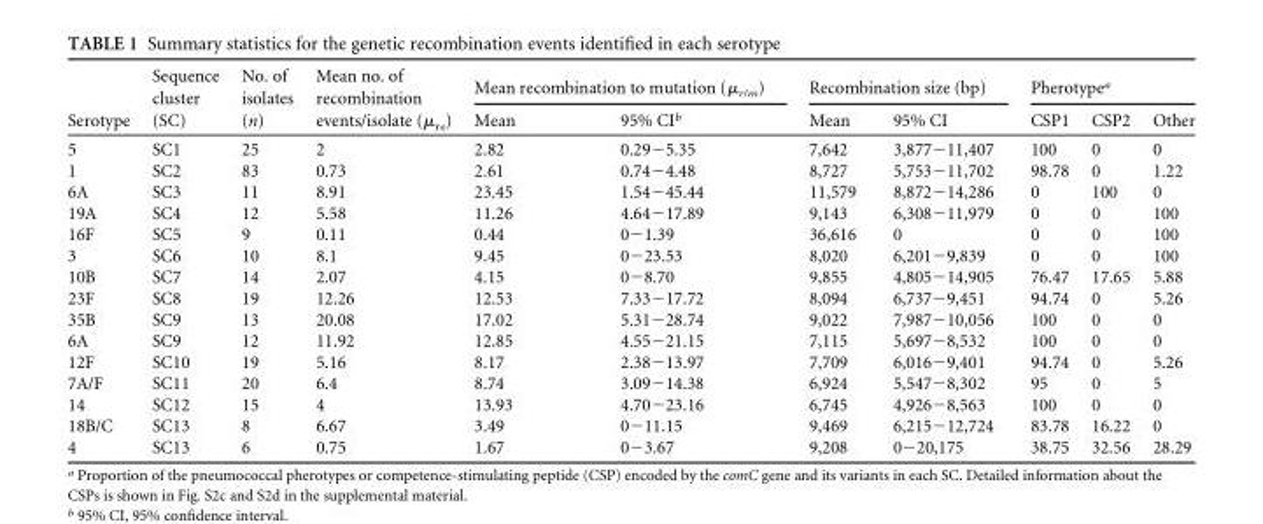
<table><thead><tr><td rowspan="2">Serotype</td><td rowspan="2">Sequence cluster (SC)</td><td rowspan="2">No. of isolates (n)</td><td rowspan="2">Mean no. of recombination events/isolate (μ<sub>re</sub>)</td><td colspan="2">Mean recombination to mutation (μ<sub>r/m</sub>)</td><td colspan="2">Recombination size (bp)</td><td colspan="3">Pherotype<sup>a</sup></td></tr><tr><td>Mean</td><td>95% CI<sup>b</sup></td><td>Mean</td><td>95% CI</td><td>CSP1</td><td>CSP2</td><td>Other</td></tr></thead><tbody><tr><td>5</td><td>SC1</td><td>25</td><td>2</td><td>2.82</td><td>0.29−5.35</td><td>7,642</td><td>3,877−11,407</td><td>100</td><td>0</td><td>0</td></tr><tr><td>1</td><td>SC2</td><td>83</td><td>0.73</td><td>2.61</td><td>0.74−4.48</td><td>8,727</td><td>5,753−11,702</td><td>98.78</td><td>0</td><td>1.22</td></tr><tr><td>6A</td><td>SC3</td><td>11</td><td>8.91</td><td>23.45</td><td>1.54−45.44</td><td>11,579</td><td>8,872−14,286</td><td>0</td><td>100</td><td>0</td></tr><tr><td>19A</td><td>SC4</td><td>12</td><td>5.58</td><td>11.26</td><td>4.64−17.89</td><td>9,143</td><td>6,308−11,979</td><td>0</td><td>0</td><td>100</td></tr><tr><td>16F</td><td>SC5</td><td>9</td><td>0.11</td><td>0.44</td><td>0−1.39</td><td>36,616</td><td>0</td><td>0</td><td>0</td><td>100</td></tr><tr><td>3</td><td>SC6</td><td>10</td><td>8.1</td><td>9.45</td><td>0−23.53</td><td>8,020</td><td>6,201−9,839</td><td>0</td><td>0</td><td>100</td></tr><tr><td>10B</td><td>SC7</td><td>14</td><td>2.07</td><td>4.15</td><td>0−8.70</td><td>9,855</td><td>4,805−14,905</td><td>76.47</td><td>17.65</td><td>5.88</td></tr><tr><td>23F</td><td>SC8</td><td>19</td><td>12.26</td><td>12.53</td><td>7.33−17.72</td><td>8,094</td><td>6,737−9,451</td><td>94.74</td><td>0</td><td>5.26</td></tr><tr><td>35B</td><td>SC9</td><td>13</td><td>20.08</td><td>17.02</td><td>5.31−28.74</td><td>9,022</td><td>7,987−10,056</td><td>100</td><td>0</td><td>0</td></tr><tr><td>6A</td><td>SC9</td><td>12</td><td>11.92</td><td>12.85</td><td>4.55−21.15</td><td>7,115</td><td>5,697−8,532</td><td>100</td><td>0</td><td>0</td></tr><tr><td>12F</td><td>SC10</td><td>19</td><td>5.16</td><td>8.17</td><td>2.38−13.97</td><td>7,709</td><td>6,016−9,401</td><td>94.74</td><td>0</td><td>5.26</td></tr><tr><td>7A/F</td><td>SC11</td><td>20</td><td>6.4</td><td>8.74</td><td>3.09−14.38</td><td>6,924</td><td>5,547−8,302</td><td>95</td><td>0</td><td>5</td></tr><tr><td>14</td><td>SC12</td><td>15</td><td>4</td><td>13.93</td><td>4.70−23.16</td><td>6,745</td><td>4,926−8,563</td><td>100</td><td>0</td><td>0</td></tr><tr><td>18B/C</td><td>SC13</td><td>8</td><td>6.67</td><td>3.49</td><td>0−11.15</td><td>9,469</td><td>6,215−12,724</td><td>83.78</td><td>16.22</td><td>0</td></tr><tr><td>4</td><td>SC13</td><td>6</td><td>0.75</td><td>1.67</td><td>0−3.67</td><td>9,208</td><td>0−20,175</td><td>38.75</td><td>32.56</td><td>28.29</td></tr></tbody></table>